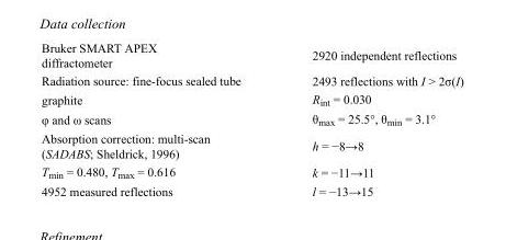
<table><tbody><tr><td>Bruker SMART APEX diffractometer</td><td>2920 independent reflections</td></tr><tr><td>Radiation source: fine-focus sealed tube</td><td>2493 reflections with I &gt; 2σ(I)</td></tr><tr><td>graphite</td><td>R<sub>int</sub> = 0.030</td></tr><tr><td>φ and ω scans</td><td>θ<sub>max</sub> = 25.5°, θ<sub>min</sub> = 3.1°</td></tr><tr><td>Absorption correction: multi-scan (SADABS; Sheldrick, 1996)</td><td>h = −8→8</td></tr><tr><td>T<sub>min</sub> = 0.480, T<sub>max</sub> = 0.616</td><td>k = −11→11</td></tr><tr><td>4952 measured reflections</td><td>l = −13→15</td></tr></tbody></table>